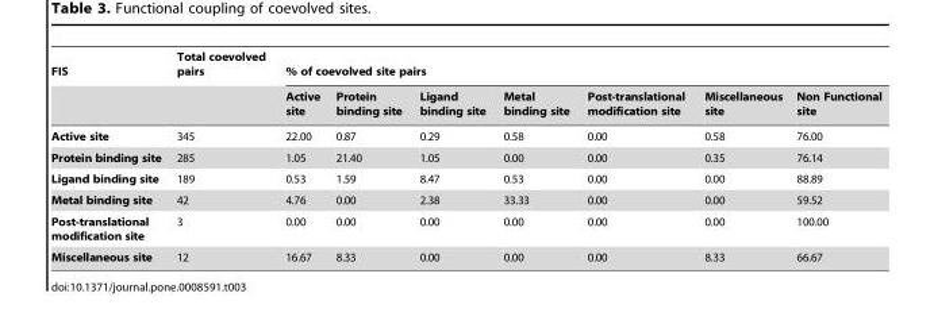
<table><thead><tr><td rowspan="2">FIS</td><td rowspan="2">Total coevolved pairs</td><td colspan="7">% of coevolved site pairs</td></tr><tr><td>Active site</td><td>Protein binding site</td><td>Ligand binding site</td><td>Metal binding site</td><td>Post-translational modification site</td><td>Miscellaneous site</td><td>Non Functional site</td></tr></thead><tbody><tr><td>Active site</td><td>345</td><td>22.00</td><td>0.87</td><td>0.29</td><td>0.58</td><td>0.00</td><td>0.58</td><td>76.00</td></tr><tr><td>Protein binding site</td><td>285</td><td>1.05</td><td>21.40</td><td>1.05</td><td>0.00</td><td>0.00</td><td>0.35</td><td>76.14</td></tr><tr><td>Ligand binding site</td><td>189</td><td>0.53</td><td>1.59</td><td>8.47</td><td>0.53</td><td>0.00</td><td>0.00</td><td>88.89</td></tr><tr><td>Metal binding site</td><td>42</td><td>4.76</td><td>0.00</td><td>2.38</td><td>33.33</td><td>0.00</td><td>0.00</td><td>59.52</td></tr><tr><td>Post-translational modification site</td><td>3</td><td>0.00</td><td>0.00</td><td>0.00</td><td>0.00</td><td>0.00</td><td>0.00</td><td>100.00</td></tr><tr><td>Miscellaneous site</td><td>12</td><td>16.67</td><td>8.33</td><td>0.00</td><td>0.00</td><td>0.00</td><td>8.33</td><td>66.67</td></tr></tbody></table>